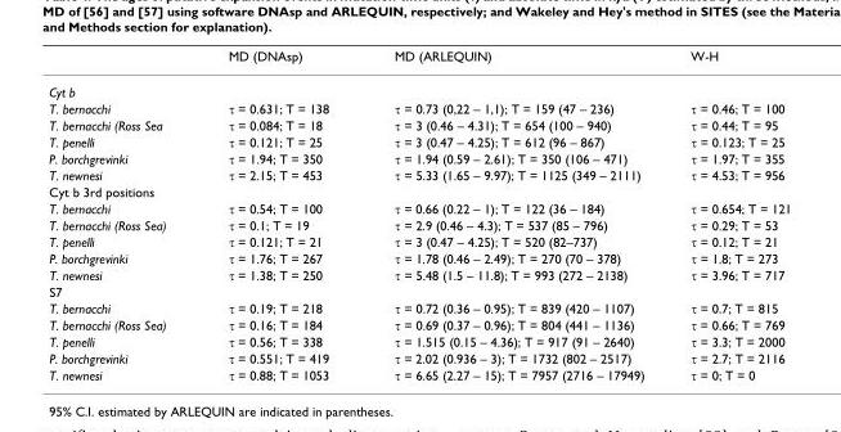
<table><thead><tr><td></td><td>MD (DNAsp)</td><td>MD (ARLEQUIN)</td><td>W-H</td></tr></thead><tbody><tr><td colspan="4">Cyt b</td></tr><tr><td>T. bernacchi</td><td>τ = 0.631; T = 138</td><td>τ = 0.73 (0,22 – 1,1); T = 159 (47 – 236)</td><td>τ = 0.46; T = 100</td></tr><tr><td>T. bernacchi (Ross Sea</td><td>τ = 0.084; T = 18</td><td>τ = 3 (0.46 – 4.31); T = 654 (100 – 940)</td><td>τ = 0.44; T = 95</td></tr><tr><td>T. penelli</td><td>τ = 0.121; T = 25</td><td>τ = 3 (0.47 – 4.25); T = 612 (96 – 867)</td><td>τ = 0.123; T = 25</td></tr><tr><td>P. borchgrevinki</td><td>τ = 1.94; T = 350</td><td>τ = 1.94 (0.59 – 2.61); T = 350 (106 – 471)</td><td>τ = 1.97; T = 355</td></tr><tr><td>T. newnesi</td><td>τ = 2.15; T = 453</td><td>τ = 5.33 (1.65 – 9.97); T = 1125 (349 – 2111)</td><td>τ = 4.53; T = 956</td></tr><tr><td colspan="4">Cyt b 3rd positions</td></tr><tr><td>T. bernacchi</td><td>τ = 0.54; T = 100</td><td>τ = 0.66 (0.22 – 1); T = 122 (36 – 184)</td><td>τ = 0.654; T = 121</td></tr><tr><td>T. bernacchi (Ross Sea)</td><td>τ = 0.1; T = 19</td><td>τ = 2.9 (0.46 – 4.3); T = 537 (85 – 796)</td><td>τ = 0.29; T = 53</td></tr><tr><td>T. penelli</td><td>τ = 0.121; T = 21</td><td>τ = 3 (0.47 – 4.25); T = 520 (82–737)</td><td>τ = 0.12; T = 21</td></tr><tr><td>P. borchgrevinki</td><td>τ = 1.76; T = 267</td><td>τ = 1.78 (0.46 – 2.49); T = 270 (70 – 378)</td><td>τ = 1.8; T = 273</td></tr><tr><td>T. newnesi</td><td>τ = 1.38; T = 250</td><td>τ = 5.48 (1.5 – 11.8); T = 993 (272 – 2138)</td><td>τ = 3.96; T = 717</td></tr><tr><td colspan="4">S7</td></tr><tr><td>T. bernacchi</td><td>τ = 0.19; T = 218</td><td>τ = 0.72 (0.36 – 0.95); T = 839 (420 – 1107)</td><td>τ = 0.7; T = 815</td></tr><tr><td>T. bernacchi (Ross Sea)</td><td>τ = 0.16; T = 184</td><td>τ = 0.69 (0.37 – 0.96); T = 804 (441 – 1136)</td><td>τ = 0.66; T = 769</td></tr><tr><td>T. penelli</td><td>τ = 0.56; T = 338</td><td>τ = 1.515 (0.15 – 4.36); T = 917 (91 – 2640)</td><td>τ = 3.3; T = 2000</td></tr><tr><td>P. borchgrevinki</td><td>τ = 0.551; T = 419</td><td>τ = 2.02 (0.936 – 3); T = 1732 (802 – 2517)</td><td>τ = 2.7; T = 2116</td></tr><tr><td>T. newnesi</td><td>τ = 0.88; T = 1053</td><td>τ = 6.65 (2.27 – 15); T = 7957 (2716 – 17949)</td><td>τ = 0; T = 0</td></tr></tbody></table>